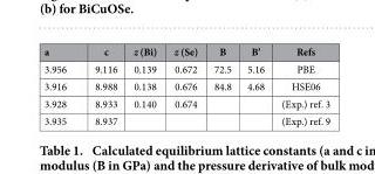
<table><thead><tr><td>a</td><td>c</td><td>z (Bi)</td><td>z (Se)</td><td>B</td><td>B’</td><td>Refs</td></tr></thead><tbody><tr><td>3.956</td><td>9.116</td><td>0.139</td><td>0.672</td><td>72.5</td><td>5.16</td><td>PBE</td></tr><tr><td>3.916</td><td>8.988</td><td>0.138</td><td>0.676</td><td>84.8</td><td>4.68</td><td>HSE06</td></tr><tr><td>3.928</td><td>8.933</td><td>0.140</td><td>0.674</td><td></td><td></td><td>(Exp.) ref. 3</td></tr><tr><td>3.935</td><td>8.937</td><td></td><td></td><td></td><td></td><td>(Exp.) ref. 9</td></tr></tbody></table>